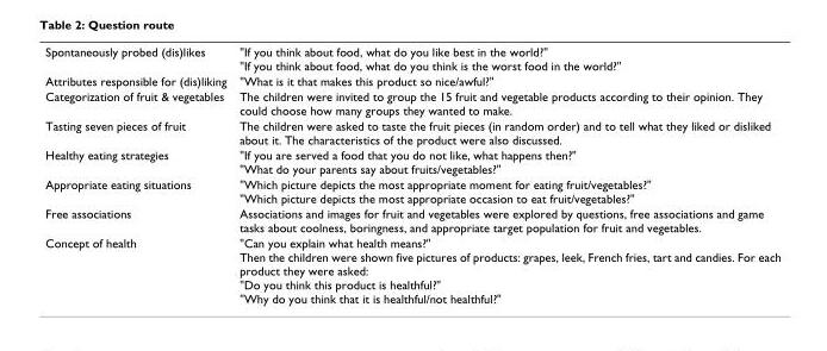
<table><tbody><tr><td>Spontaneously probed (dis)likes</td><td>&quot;If you think about food, what do you like best in the world?&quot; &quot;If you think about food, what do you think is the worst food in the world?&quot;</td></tr><tr><td>Attributes responsible for (dis)liking</td><td>&quot;What is it that makes this product so nice/awful?&quot;</td></tr><tr><td>Categorization of fruit &amp; vegetables</td><td>The children were invited to group the 15 fruit and vegetable products according to their opinion. They could choose how many groups they wanted to make.</td></tr><tr><td>Tasting seven pieces of fruit</td><td>The children were asked to taste the fruit pieces (in random order) and to tell what they liked or disliked about it. The characteristics of the product were also discussed.</td></tr><tr><td>Healthy eating strategies</td><td>&quot;If you are served a food that you do not like, what happens then?&quot; &quot;What do your parents say about fruits/vegetables?&quot;</td></tr><tr><td>Appropriate eating situations</td><td>&quot;Which picture depicts the most appropriate moment for eating fruit/vegetables?&quot; &quot;Which picture depicts the most appropriate occasion to eat fruit/vegetables?&quot;</td></tr><tr><td>Free associations</td><td>Associations and images for fruit and vegetables were explored by questions, free associations and game tasks about coolness, boringness, and appropriate target population for fruit and vegetables.</td></tr><tr><td>Concept of health</td><td>&quot;Can you explain what health means?&quot; Then the children were shown five pictures of products: grapes, leek, French fries, tart and candies. For each product they were asked: &quot;Do you think this product is healthful?&quot; &quot;Why do you think that it is healthful/not healthful?&quot;</td></tr></tbody></table>